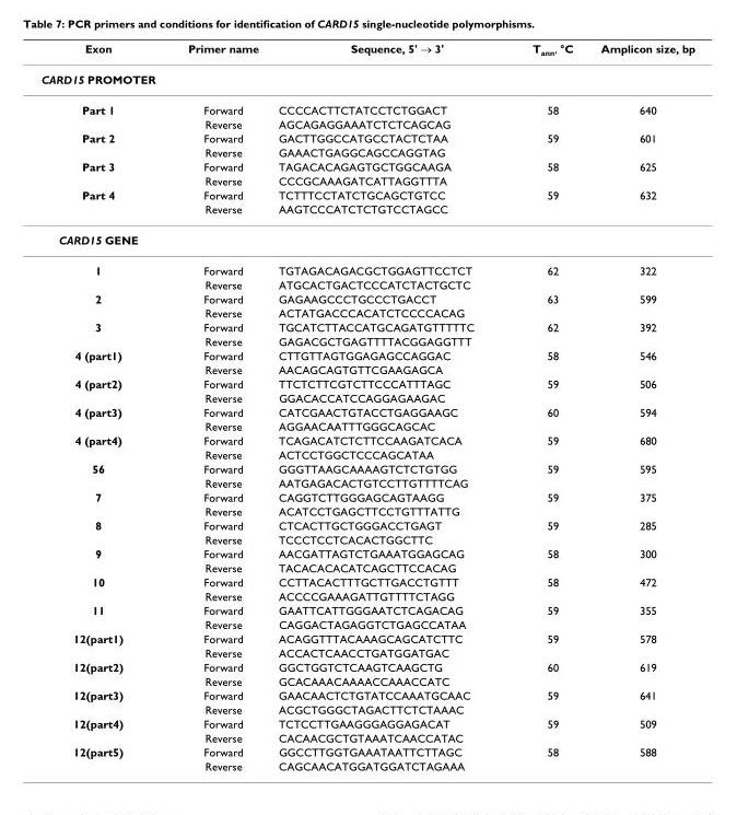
<table><thead><tr><td>Exon</td><td>Primer name</td><td>Sequence, 5&#x27; → 3&#x27;</td><td>T<sub>ann</sub>, °C</td><td>Amplicon size, bp</td></tr></thead><tbody><tr><td colspan="5">CARD15 PROMOTER</td></tr><tr><td rowspan="2">Part 1</td><td>Forward</td><td>CCCCACTTCTATCCTCTGGACT</td><td>58</td><td>640</td></tr><tr><td>Reverse</td><td>AGCAGAGGAAATCTCTCAGCAG</td><td></td><td></td></tr><tr><td rowspan="2">Part 2</td><td>Forward</td><td>GACTTGGCCATGCCTACTCTAA</td><td>59</td><td>601</td></tr><tr><td>Reverse</td><td>GAAACTGAGGCAGCCAGGTAG</td><td></td><td></td></tr><tr><td rowspan="2">Part 3</td><td>Forward</td><td>TAGACACAGAGTGCTGGCAAGA</td><td>58</td><td>625</td></tr><tr><td>Reverse</td><td>CCCGCAAAGATCATTAGGTTTA</td><td></td><td></td></tr><tr><td rowspan="2">Part 4</td><td>Forward</td><td>TCTTTCCTATCTGCAGCTGTCC</td><td>59</td><td>632</td></tr><tr><td>Reverse</td><td>AAGTCCCATCTCTGTCCTAGCC</td><td></td><td></td></tr><tr><td colspan="5">CARD15 GENE</td></tr><tr><td rowspan="2">1</td><td>Forward</td><td>TGTAGACAGACGCTGGAGTTCCTCT</td><td>62</td><td>322</td></tr><tr><td>Reverse</td><td>ATGCACTGACTCCCATCTACTGCTC</td><td></td><td></td></tr><tr><td rowspan="2">2</td><td>Forward</td><td>GAGAAGCCCTGCCCTGACCT</td><td>63</td><td>599</td></tr><tr><td>Reverse</td><td>ACTATGACCCACATCTCCCCACAG</td><td></td><td></td></tr><tr><td rowspan="2">3</td><td>Forward</td><td>TGCATCTTACCATGCAGATGTTTTTC</td><td>62</td><td>392</td></tr><tr><td>Reverse</td><td>GAGACGCTGAGTTTTACGGAGGTTT</td><td></td><td></td></tr><tr><td rowspan="2">4 (part1)</td><td>Forward</td><td>CTTGTTAGTGGAGAGCCAGGAC</td><td>58</td><td>546</td></tr><tr><td>Reverse</td><td>AACAGCAGTGTTCGAAGAGCA</td><td></td><td></td></tr><tr><td rowspan="2">4 (part2)</td><td>Forward</td><td>TTCTCTTCGTCTTCCCATTTAGC</td><td>59</td><td>506</td></tr><tr><td>Reverse</td><td>GGACACCATCCAGGAGAAGAC</td><td></td><td></td></tr><tr><td rowspan="2">4 (part3)</td><td>Forward</td><td>CATCGAACTGTACCTGAGGAAGC</td><td>60</td><td>594</td></tr><tr><td>Reverse</td><td>AGGAACAATTTGGGCAGCAC</td><td></td><td></td></tr><tr><td rowspan="2">4 (part4)</td><td>Forward</td><td>TCAGACATCTCTTCCAAGATCACA</td><td>59</td><td>680</td></tr><tr><td>Reverse</td><td>ACTCCTGGCTCCCAGCATAA</td><td></td><td></td></tr><tr><td rowspan="2">56</td><td>Forward</td><td>GGGTTAAGCAAAAGTCTCTGTGG</td><td>59</td><td>595</td></tr><tr><td>Reverse</td><td>AATGAGACACTGTCCTTGTTTTCAG</td><td></td><td></td></tr><tr><td rowspan="2">7</td><td>Forward</td><td>CAGGTCTTGGGAGCAGTAAGG</td><td>59</td><td>375</td></tr><tr><td>Reverse</td><td>ACATCCTGAGCTTCCTGTTTATTG</td><td></td><td></td></tr><tr><td rowspan="2">8</td><td>Forward</td><td>CTCACTTGCTGGGACCTGAGT</td><td>59</td><td>285</td></tr><tr><td>Reverse</td><td>TCCCTCCTCACACTGGCTTC</td><td></td><td></td></tr><tr><td rowspan="2">9</td><td>Forward</td><td>AACGATTAGTCTGAAATGGAGCAG</td><td>58</td><td>300</td></tr><tr><td>Reverse</td><td>TACACACACATCAGCTTCCACAG</td><td></td><td></td></tr><tr><td rowspan="2">10</td><td>Forward</td><td>CCTTACACTTTGCTTGACCTGTTT</td><td>58</td><td>472</td></tr><tr><td>Reverse</td><td>ACCCCGAAAGATTGTTTTCTAGG</td><td></td><td></td></tr><tr><td rowspan="2">11</td><td>Forward</td><td>GAATTCATTGGGAATCTCAGACAG</td><td>59</td><td>355</td></tr><tr><td>Reverse</td><td>CAGGACTAGAGGTCTGAGCCATAA</td><td></td><td></td></tr><tr><td rowspan="2">12(part1)</td><td>Forward</td><td>ACAGGTTTACAAAGCAGCATCTTC</td><td>59</td><td>578</td></tr><tr><td>Reverse</td><td>ACCACTCAACCTGATGGATGAC</td><td></td><td></td></tr><tr><td rowspan="2">12(part2)</td><td>Forward</td><td>GGCTGGTCTCAAGTCAAGCTG</td><td>60</td><td>619</td></tr><tr><td>Reverse</td><td>GCACAAACAAAACCAAACCATC</td><td></td><td></td></tr><tr><td rowspan="2">12(part3)</td><td>Forward</td><td>GAACAACTCTGTATCCAAATGCAAC</td><td>59</td><td>641</td></tr><tr><td>Reverse</td><td>ACGCTGGGCTAGACTTCTCTAAAC</td><td></td><td></td></tr><tr><td rowspan="2">12(part4)</td><td>Forward</td><td>TCTCCTTGAAGGGAGGAGACAT</td><td>59</td><td>509</td></tr><tr><td>Reverse</td><td>CACAACGCTGTAAATCAACCATAC</td><td></td><td></td></tr><tr><td rowspan="2">12(part5)</td><td>Forward</td><td>GGCCTTGGTGAAATAATTCTTAGC</td><td>58</td><td>588</td></tr><tr><td>Reverse</td><td>CAGCAACATGGATGGATCTAGAAA</td><td></td><td></td></tr></tbody></table>